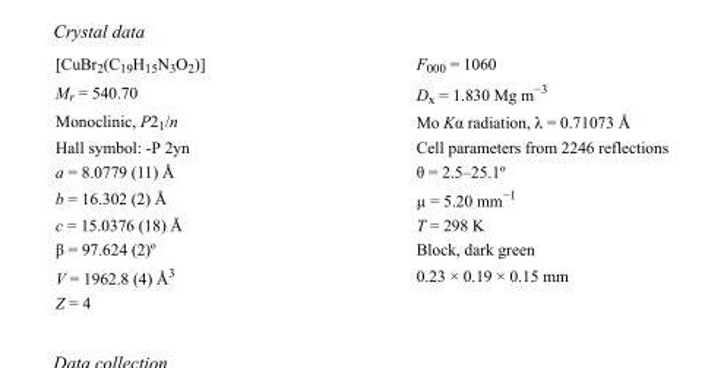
<table><tbody><tr><td>[CuBr<sub>2</sub>(C<sub>19</sub>H<sub>15</sub>N<sub>3</sub>O<sub>2</sub>)]</td><td>F000 = 1060</td></tr><tr><td>M<sub>r</sub> = 540.70</td><td>D<sub>x</sub> = 1.830 Mg m<sup>−3</sup></td></tr><tr><td>Monoclinic, P2<sub>1</sub>/n</td><td>Mo Kα radiation, λ = 0.71073 Å</td></tr><tr><td>Hall symbol: -P 2yn</td><td>Cell parameters from 2246 reflections</td></tr><tr><td>a = 8.0779 (11) Å</td><td>θ = 2.5–25.1º</td></tr><tr><td>b = 16.302 (2) Å</td><td>µ = 5.20 mm<sup>−1</sup></td></tr><tr><td>c = 15.0376 (18) Å</td><td>T = 298 K</td></tr><tr><td>β = 97.624 (2)º</td><td>Block, dark green</td></tr><tr><td>V = 1962.8 (4) Å<sup>3</sup></td><td>0.23 × 0.19 × 0.15 mm</td></tr><tr><td>Z = 4</td><td></td></tr></tbody></table>